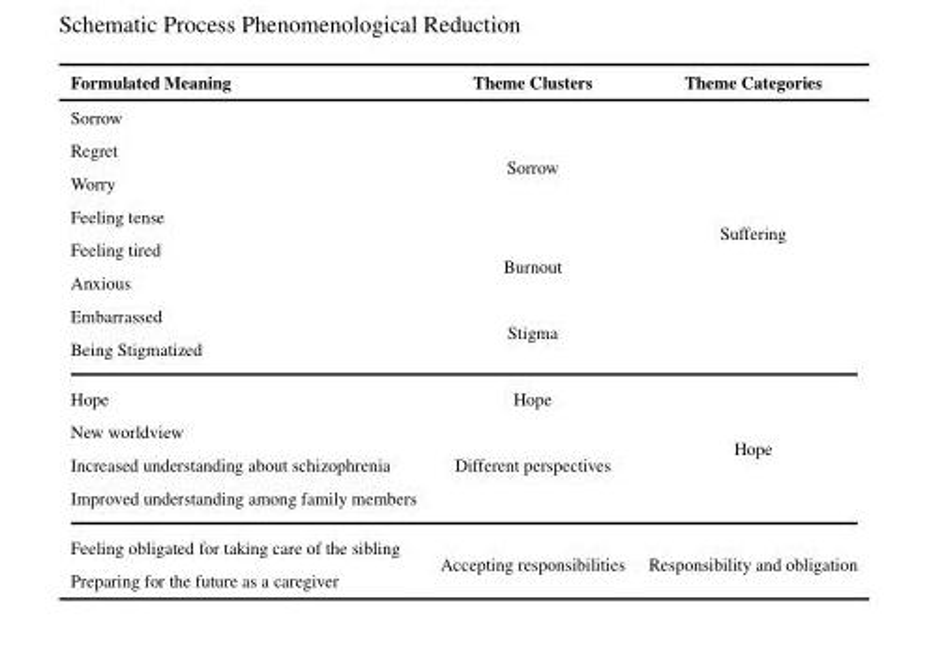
<table><thead><tr><td>Formulated Meaning</td><td>Theme Clusters</td><td>Theme Categories</td></tr></thead><tbody><tr><td>Sorrow</td><td rowspan="4">Sorrow</td><td rowspan="8">Suffering</td></tr><tr><td>Regret</td></tr><tr><td>Worry</td></tr><tr><td>Feeling tense</td></tr><tr><td>Feeling tired</td><td rowspan="2">Burnout</td></tr><tr><td>Anxious</td></tr><tr><td>Embarrassed</td><td rowspan="2">Stigma</td></tr><tr><td>Being Stigmatized</td></tr><tr><td>Hope</td><td>Hope</td><td rowspan="4">Hope</td></tr><tr><td>New worldview</td><td rowspan="3">Different perspectives</td></tr><tr><td>Increased understanding about schizophrenia</td></tr><tr><td>Improved understanding among family members</td></tr><tr><td>Feeling obligated for taking care of the sibling</td><td rowspan="2">Accepting responsibilities</td><td rowspan="2">Responsibility and obligation</td></tr><tr><td>Preparing for the future as a caregiver</td></tr></tbody></table>